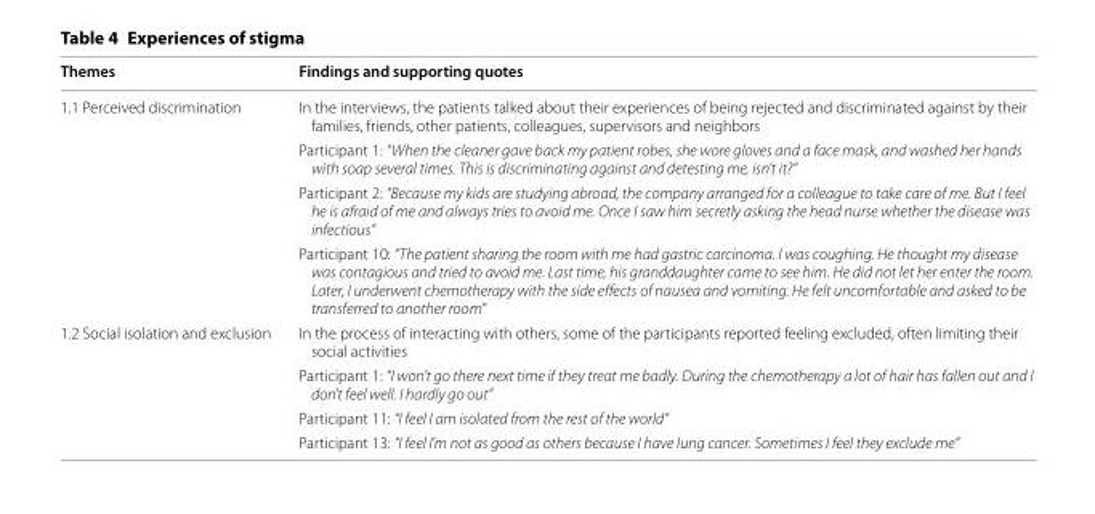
<table><thead><tr><td>Themes</td><td>Findings and supporting quotes</td></tr></thead><tbody><tr><td rowspan="4">1.1 Perceived discrimination</td><td>In the interviews, the patients talked about their experiences of being rejected and discriminated against by their families, friends, other patients, colleagues, supervisors and neighbors</td></tr><tr><td>Participant 1: “When the cleaner gave back my patient robes, she wore gloves and a face mask, and washed her hands with soap several times. This is discriminating against and detesting me, isn’t it?”</td></tr><tr><td>Participant 2: “Because my kids are studying abroad, the company arranged for a colleague to take care of me. But I feel he is afraid of me and always tries to avoid me. Once I saw him secretly asking the head nurse whether the disease was infectious”</td></tr><tr><td>Participant 10: “The patient sharing the room with me had gastric carcinoma. I was coughing. He thought my disease was contagious and tried to avoid me. Last time, his granddaughter came to see him. He did not let her enter the room. Later, I underwent chemotherapy with the side effects of nausea and vomiting. He felt uncomfortable and asked to be transferred to another room”</td></tr><tr><td rowspan="4">1.2 Social isolation and exclusion</td><td>In the process of interacting with others, some of the participants reported feeling excluded, often limiting their social activities</td></tr><tr><td>Participant 1: “I won’t go there next time if they treat me badly. During the chemotherapy a lot of hair has fallen out and I don’t feel well. I hardly go out”</td></tr><tr><td>Participant 11: “I feel I am isolated from the rest of the world”</td></tr><tr><td>Participant 13: “I feel I’m not as good as others because I have lung cancer. Sometimes I feel they exclude me”</td></tr></tbody></table>